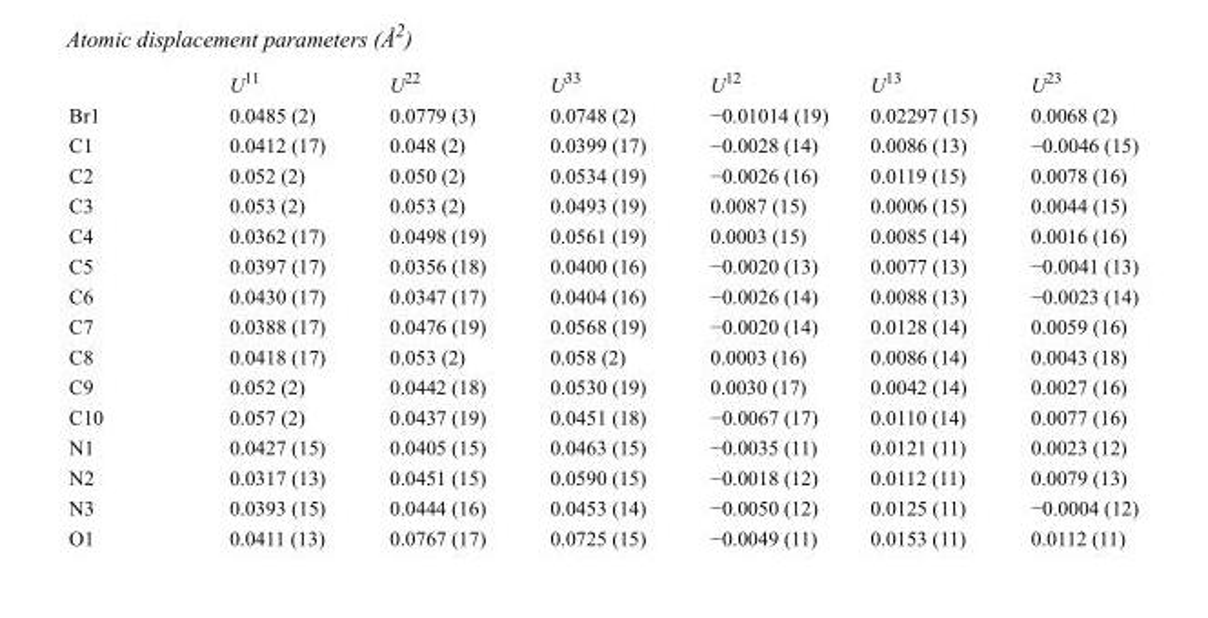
<table><thead><tr><td></td><td>U<sup>11</sup></td><td>U<sup>22</sup></td><td>U<sup>33</sup></td><td>U<sup>12</sup></td><td>U<sup>13</sup></td><td>U<sup>23</sup></td></tr></thead><tbody><tr><td>Br1</td><td>0.0485 (2)</td><td>0.0779 (3)</td><td>0.0748 (2)</td><td>−0.01014 (19)</td><td>0.02297 (15)</td><td>0.0068 (2)</td></tr><tr><td>C1</td><td>0.0412 (17)</td><td>0.048 (2)</td><td>0.0399 (17)</td><td>−0.0028 (14)</td><td>0.0086 (13)</td><td>−0.0046 (15)</td></tr><tr><td>C2</td><td>0.052 (2)</td><td>0.050 (2)</td><td>0.0534 (19)</td><td>−0.0026 (16)</td><td>0.0119 (15)</td><td>0.0078 (16)</td></tr><tr><td>C3</td><td>0.053 (2)</td><td>0.053 (2)</td><td>0.0493 (19)</td><td>0.0087 (15)</td><td>0.0006 (15)</td><td>0.0044 (15)</td></tr><tr><td>C4</td><td>0.0362 (17)</td><td>0.0498 (19)</td><td>0.0561 (19)</td><td>0.0003 (15)</td><td>0.0085 (14)</td><td>0.0016 (16)</td></tr><tr><td>C5</td><td>0.0397 (17)</td><td>0.0356 (18)</td><td>0.0400 (16)</td><td>−0.0020 (13)</td><td>0.0077 (13)</td><td>−0.0041 (13)</td></tr><tr><td>C6</td><td>0.0430 (17)</td><td>0.0347 (17)</td><td>0.0404 (16)</td><td>−0.0026 (14)</td><td>0.0088 (13)</td><td>−0.0023 (14)</td></tr><tr><td>C7</td><td>0.0388 (17)</td><td>0.0476 (19)</td><td>0.0568 (19)</td><td>−0.0020 (14)</td><td>0.0128 (14)</td><td>0.0059 (16)</td></tr><tr><td>C8</td><td>0.0418 (17)</td><td>0.053 (2)</td><td>0.058 (2)</td><td>0.0003 (16)</td><td>0.0086 (14)</td><td>0.0043 (18)</td></tr><tr><td>C9</td><td>0.052 (2)</td><td>0.0442 (18)</td><td>0.0530 (19)</td><td>0.0030 (17)</td><td>0.0042 (14)</td><td>0.0027 (16)</td></tr><tr><td>C10</td><td>0.057 (2)</td><td>0.0437 (19)</td><td>0.0451 (18)</td><td>−0.0067 (17)</td><td>0.0110 (14)</td><td>0.0077 (16)</td></tr><tr><td>N1</td><td>0.0427 (15)</td><td>0.0405 (15)</td><td>0.0463 (15)</td><td>−0.0035 (11)</td><td>0.0121 (11)</td><td>0.0023 (12)</td></tr><tr><td>N2</td><td>0.0317 (13)</td><td>0.0451 (15)</td><td>0.0590 (15)</td><td>−0.0018 (12)</td><td>0.0112 (11)</td><td>0.0079 (13)</td></tr><tr><td>N3</td><td>0.0393 (15)</td><td>0.0444 (16)</td><td>0.0453 (14)</td><td>−0.0050 (12)</td><td>0.0125 (11)</td><td>−0.0004 (12)</td></tr><tr><td>O1</td><td>0.0411 (13)</td><td>0.0767 (17)</td><td>0.0725 (15)</td><td>−0.0049 (11)</td><td>0.0153 (11)</td><td>0.0112 (11)</td></tr></tbody></table>